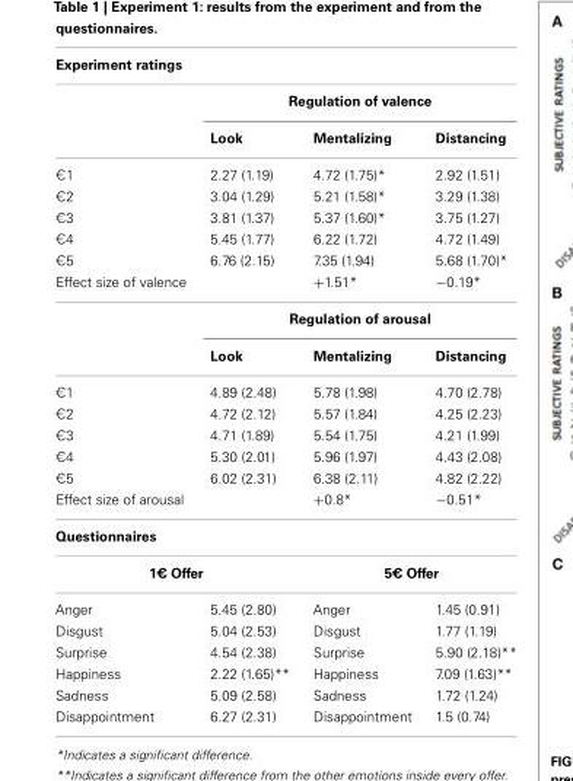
<table><thead><tr><td rowspan="3">Experiment ratings</td><td></td><td></td><td></td></tr><tr><td colspan="3">Regulation of valence</td></tr><tr><td>Look</td><td>Mentalizing</td><td>Distancing</td></tr></thead><tbody><tr><td>€1</td><td>2.27 (1.19)</td><td>4.72 (1.75)*</td><td>2.92 (1.51)</td></tr><tr><td>€2</td><td>3.04 (1.29)</td><td>5.21 (1.58)*</td><td>3.29 (1.38)</td></tr><tr><td>€3</td><td>3.81 (1.37)</td><td>5.37 (1.60)*</td><td>3.75 (1.27)</td></tr><tr><td>€4</td><td>5.45 (1.77)</td><td>6.22 (1.72)</td><td>4.72 (1.49)</td></tr><tr><td>€5</td><td>6.76 (2.15)</td><td>7.35 (1.94)</td><td>5.68 (1.70)*</td></tr><tr><td rowspan="3">Effect size of valence</td><td></td><td>+1.51*</td><td>−0.19*</td></tr><tr><td colspan="3">Regulation of arousal</td></tr><tr><td>Look</td><td>Mentalizing</td><td>Distancing</td></tr><tr><td>€1</td><td>4.89 (2.48)</td><td>5.78 (1.98)</td><td>4.70 (2.78)</td></tr><tr><td>€2</td><td>4.72 (2.12)</td><td>5.57 (1.84)</td><td>4.25 (2.23)</td></tr><tr><td>€3</td><td>4.71 (1.89)</td><td>5.54 (1.75)</td><td>4.21 (1.99)</td></tr><tr><td>€4</td><td>5.30 (2.01)</td><td>5.96 (1.97)</td><td>4.43 (2.08)</td></tr><tr><td>€5</td><td>6.02 (2.31)</td><td>6.38 (2.11)</td><td>4.82 (2.22)</td></tr><tr><td>Effect size of arousal</td><td></td><td>+0.8*</td><td>−0.51*</td></tr><tr><td colspan="4">Questionnaires</td></tr><tr><td colspan="2">1€ Offer</td><td colspan="2">5€ Offer</td></tr><tr><td>Anger</td><td>5.45 (2.80)</td><td>Anger</td><td>1.45 (0.91)</td></tr><tr><td>Disgust</td><td>5.04 (2.53)</td><td>Disgust</td><td>1.77 (1.19)</td></tr><tr><td>Surprise</td><td>4.54 (2.38)</td><td>Surprise</td><td>5.90 (2.18)**</td></tr><tr><td>Happiness</td><td>2.22 (1.65)**</td><td>Happiness</td><td>7.09 (1.63)**</td></tr><tr><td>Sadness</td><td>5.09 (2.58)</td><td>Sadness</td><td>1.72 (1.24)</td></tr><tr><td>Disappointment</td><td>6.27 (2.31)</td><td>Disappointment</td><td>1.5 (0.74)</td></tr></tbody></table>